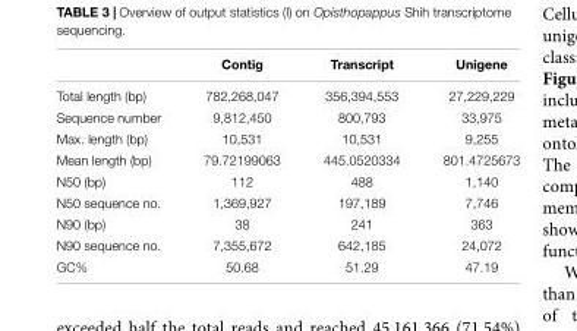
<table><thead><tr><td></td><td>Contig</td><td>Transcript</td><td>Unigene</td></tr></thead><tbody><tr><td>Total length (bp)</td><td>782,268,047</td><td>356,394,553</td><td>27,229,229</td></tr><tr><td>Sequence number</td><td>9,812,450</td><td>800,793</td><td>33,975</td></tr><tr><td>Max. length (bp)</td><td>10,531</td><td>10,531</td><td>9,255</td></tr><tr><td>Mean length (bp)</td><td>79.72199063</td><td>445.0520334</td><td>801.4725673</td></tr><tr><td>N50 (bp)</td><td>112</td><td>488</td><td>1,140</td></tr><tr><td>N50 sequence no.</td><td>1,369,927</td><td>197,189</td><td>7,746</td></tr><tr><td>N90 (bp)</td><td>38</td><td>241</td><td>363</td></tr><tr><td>N90 sequence no.</td><td>7,355,672</td><td>642,185</td><td>24,072</td></tr><tr><td>GC%</td><td>50.68</td><td>51.29</td><td>47.19</td></tr></tbody></table>